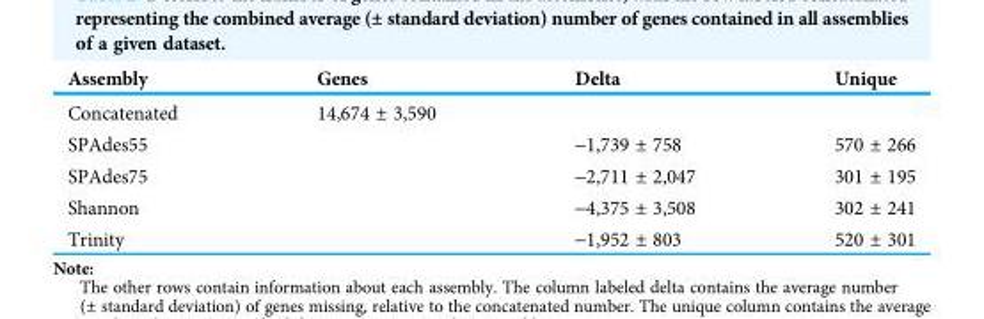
<table><thead><tr><td>Assembly</td><td>Genes</td><td>Delta</td><td>Unique</td></tr></thead><tbody><tr><td>Concatenated</td><td>14,674 ± 3,590</td><td></td><td></td></tr><tr><td>SPAdes55</td><td></td><td>-1,739 ± 758</td><td>570 ± 266</td></tr><tr><td>SPAdes75</td><td></td><td>-2,711 ± 2,047</td><td>301 ± 195</td></tr><tr><td>Shannon</td><td></td><td>-4,375 ± 3,508</td><td>302 ± 241</td></tr><tr><td>Trinity</td><td></td><td>-1,952 ± 803</td><td>520 ± 301</td></tr></tbody></table>